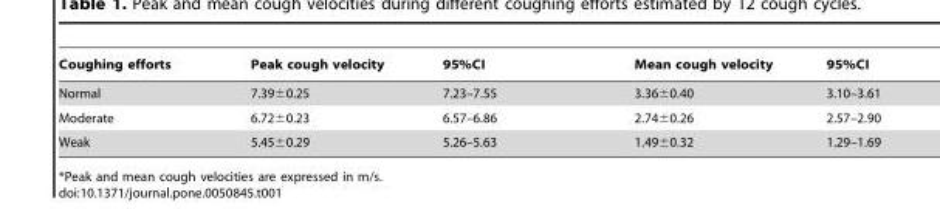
<table><thead><tr><td>Coughing efforts</td><td>Peak cough velocity</td><td>95%CI</td><td>Mean cough velocity</td><td>95%CI</td></tr></thead><tbody><tr><td>Normal</td><td>7.39±0.25</td><td>7.23–7.55</td><td>3.36±0.40</td><td>3.10–3.61</td></tr><tr><td>Moderate</td><td>6.72±0.23</td><td>6.57–6.86</td><td>2.74±0.26</td><td>2.57–2.90</td></tr><tr><td>Weak</td><td>5.45±0.29</td><td>5.26–5.63</td><td>1.49±0.32</td><td>1.29–1.69</td></tr></tbody></table>